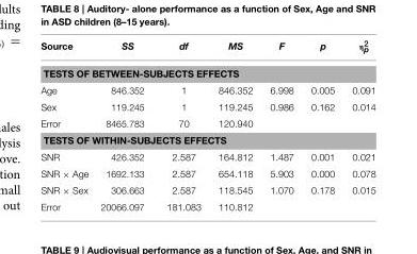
<table><thead><tr><td>Source</td><td>SS</td><td>df</td><td>MS</td><td>F</td><td>p</td><td>η<sup>2</sup><sub>p</sub></td></tr></thead><tbody><tr><td colspan="7">TESTS OF BETWEEN-SUBJECTS EFFECTS</td></tr><tr><td>Age</td><td>846.352</td><td>1</td><td>846.352</td><td>6.998</td><td>0.005</td><td>0.091</td></tr><tr><td>Sex</td><td>119.245</td><td>1</td><td>119.245</td><td>0.986</td><td>0.162</td><td>0.014</td></tr><tr><td>Error</td><td>8465.783</td><td>70</td><td>120.940</td><td></td><td></td><td></td></tr><tr><td colspan="7">TESTS OF WITHIN-SUBJECTS EFFECTS</td></tr><tr><td>SNR</td><td>426.352</td><td>2.587</td><td>164.812</td><td>1.487</td><td>0.001</td><td>0.021</td></tr><tr><td>SNR × Age</td><td>1692.133</td><td>2.587</td><td>654.118</td><td>5.903</td><td>0.000</td><td>0.078</td></tr><tr><td>SNR × Sex</td><td>306.663</td><td>2.587</td><td>118.545</td><td>1.070</td><td>0.178</td><td>0.015</td></tr><tr><td>Error</td><td>20066.097</td><td>181.083</td><td>110.812</td><td></td><td></td><td></td></tr></tbody></table>